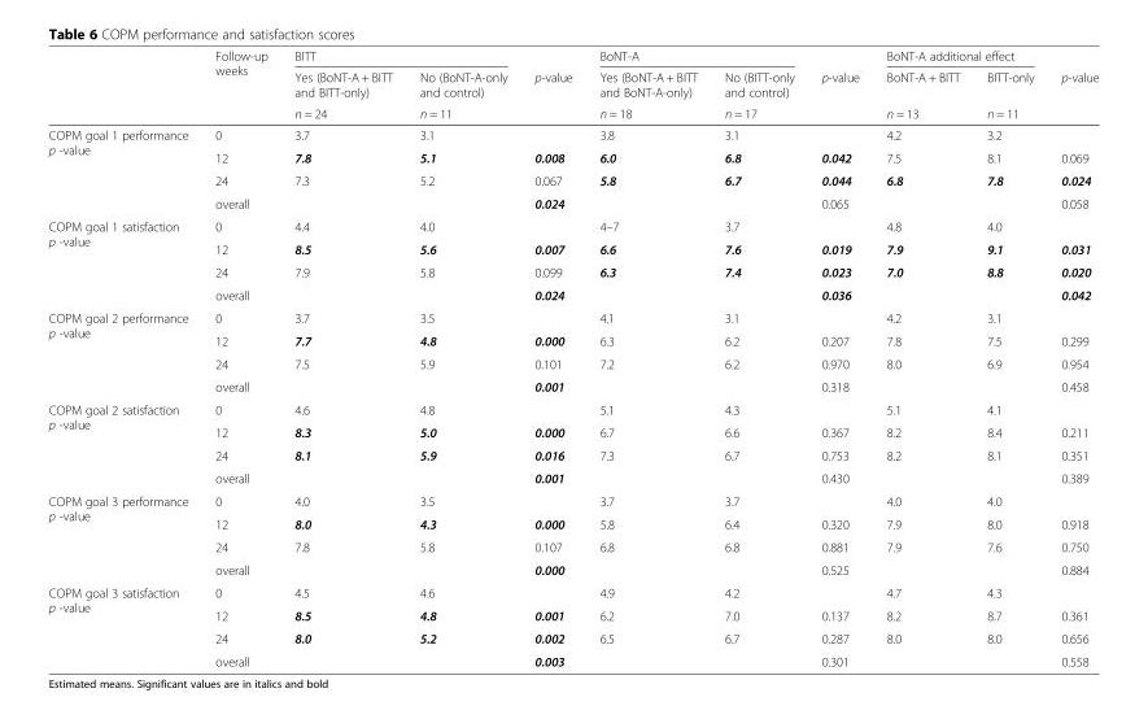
<table><thead><tr><td rowspan="3"></td><td rowspan="3">Follow-up weeks</td><td colspan="2">BITT</td><td rowspan="3">p-value</td><td colspan="2">BoNT-A</td><td rowspan="3">p-value</td><td colspan="2">BoNT-A additional effect</td><td rowspan="3">p-value</td></tr><tr><td rowspan="2">Yes (BoNT-A + BITT and BITT-only) n = 24</td><td rowspan="2">No (BoNT-A-only and control) n = 11</td><td rowspan="2">Yes (BoNT-A + BITT and BoNT-A-only) n = 18</td><td rowspan="2">No (BITT-only and control) n = 17</td><td rowspan="2">BoNT-A + BITT n = 13</td><td rowspan="2">BITT-only n = 11</td></tr><tr></tr></thead><tbody><tr><td rowspan="4">COPM goal 1 performance p -value</td><td>0</td><td>3.7</td><td>3.1</td><td></td><td>3.8</td><td>3.1</td><td></td><td>4.2</td><td>3.2</td><td></td></tr><tr><td>12</td><td>7.8</td><td>5.1</td><td>0.008</td><td>6.0</td><td>6.8</td><td>0.042</td><td>7.5</td><td>8.1</td><td>0.069</td></tr><tr><td>24</td><td>7.3</td><td>5.2</td><td>0.067</td><td>5.8</td><td>6.7</td><td>0.044</td><td>6.8</td><td>7.8</td><td>0.024</td></tr><tr><td>overall</td><td></td><td></td><td>0.024</td><td></td><td></td><td>0.065</td><td></td><td></td><td>0.058</td></tr><tr><td rowspan="4">COPM goal 1 satisfaction p -value</td><td>0</td><td>4.4</td><td>4.0</td><td></td><td>4–7</td><td>3.7</td><td></td><td>4.8</td><td>4.0</td><td></td></tr><tr><td>12</td><td>8.5</td><td>5.6</td><td>0.007</td><td>6.6</td><td>7.6</td><td>0.019</td><td>7.9</td><td>9.1</td><td>0.031</td></tr><tr><td>24</td><td>7.9</td><td>5.8</td><td>0.099</td><td>6.3</td><td>7.4</td><td>0.023</td><td>7.0</td><td>8.8</td><td>0.020</td></tr><tr><td>overall</td><td></td><td></td><td>0.024</td><td></td><td></td><td>0.036</td><td></td><td></td><td>0.042</td></tr><tr><td rowspan="4">COPM goal 2 performance p -value</td><td>0</td><td>3.7</td><td>3.5</td><td></td><td>4.1</td><td>3.1</td><td></td><td>4.2</td><td>3.1</td><td></td></tr><tr><td>12</td><td>7.7</td><td>4.8</td><td>0.000</td><td>6.3</td><td>6.2</td><td>0.207</td><td>7.8</td><td>7.5</td><td>0.299</td></tr><tr><td>24</td><td>7.5</td><td>5.9</td><td>0.101</td><td>7.2</td><td>6.2</td><td>0.970</td><td>8.0</td><td>6.9</td><td>0.954</td></tr><tr><td>overall</td><td></td><td></td><td>0.001</td><td></td><td></td><td>0.318</td><td></td><td></td><td>0.458</td></tr><tr><td rowspan="4">COPM goal 2 satisfaction p -value</td><td>0</td><td>4.6</td><td>4.8</td><td></td><td>5.1</td><td>4.3</td><td></td><td>5.1</td><td>4.1</td><td></td></tr><tr><td>12</td><td>8.3</td><td>5.0</td><td>0.000</td><td>6.7</td><td>6.6</td><td>0.367</td><td>8.2</td><td>8.4</td><td>0.211</td></tr><tr><td>24</td><td>8.1</td><td>5.9</td><td>0.016</td><td>7.3</td><td>6.7</td><td>0.753</td><td>8.2</td><td>8.1</td><td>0.351</td></tr><tr><td>overall</td><td></td><td></td><td>0.001</td><td></td><td></td><td>0.430</td><td></td><td></td><td>0.389</td></tr><tr><td rowspan="4">COPM goal 3 performance p -value</td><td>0</td><td>4.0</td><td>3.5</td><td></td><td>3.7</td><td>3.7</td><td></td><td>4.0</td><td>4.0</td><td></td></tr><tr><td>12</td><td>8.0</td><td>4.3</td><td>0.000</td><td>5.8</td><td>6.4</td><td>0.320</td><td>7.9</td><td>8.0</td><td>0.918</td></tr><tr><td>24</td><td>7.8</td><td>5.8</td><td>0.107</td><td>6.8</td><td>6.8</td><td>0.881</td><td>7.9</td><td>7.6</td><td>0.750</td></tr><tr><td>overall</td><td></td><td></td><td>0.000</td><td></td><td></td><td>0.525</td><td></td><td></td><td>0.884</td></tr><tr><td rowspan="4">COPM goal 3 satisfaction p -value</td><td>0</td><td>4.5</td><td>4.6</td><td></td><td>4.9</td><td>4.2</td><td></td><td>4.7</td><td>4.3</td><td></td></tr><tr><td>12</td><td>8.5</td><td>4.8</td><td>0.001</td><td>6.2</td><td>7.0</td><td>0.137</td><td>8.2</td><td>8.7</td><td>0.361</td></tr><tr><td>24</td><td>8.0</td><td>5.2</td><td>0.002</td><td>6.5</td><td>6.7</td><td>0.287</td><td>8.0</td><td>8.0</td><td>0.656</td></tr><tr><td>overall</td><td></td><td></td><td>0.003</td><td></td><td></td><td>0.301</td><td></td><td></td><td>0.558</td></tr></tbody></table>